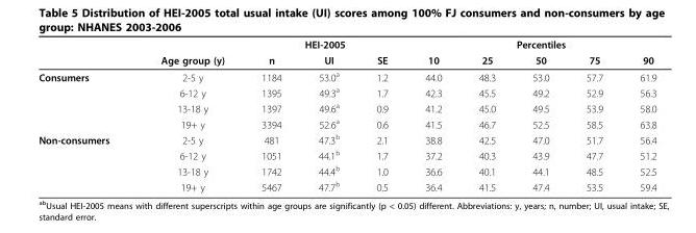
<table><thead><tr><td rowspan="2"></td><td rowspan="2">Age group (y)</td><td colspan="3">HEI-2005</td><td colspan="5">Percentiles</td></tr><tr><td>n</td><td>UI</td><td>SE</td><td>10</td><td>25</td><td>50</td><td>75</td><td>90</td></tr></thead><tbody><tr><td rowspan="4">Consumers</td><td>2-5 y</td><td>1184</td><td>53.0<sup>a</sup></td><td>1.2</td><td>44.0</td><td>48.3</td><td>53.0</td><td>57.7</td><td>61.9</td></tr><tr><td>6-12 y</td><td>1395</td><td>49.3<sup>a</sup></td><td>1.7</td><td>42.3</td><td>45.5</td><td>49.2</td><td>52.9</td><td>56.3</td></tr><tr><td>13-18 y</td><td>1397</td><td>49.6<sup>a</sup></td><td>0.9</td><td>41.2</td><td>45.0</td><td>49.5</td><td>53.9</td><td>58.0</td></tr><tr><td>19+ y</td><td>3394</td><td>52.6<sup>a</sup></td><td>0.6</td><td>41.5</td><td>46.7</td><td>52.5</td><td>58.5</td><td>63.8</td></tr><tr><td rowspan="4">Non-consumers</td><td>2-5 y</td><td>481</td><td>47.3<sup>b</sup></td><td>2.1</td><td>38.8</td><td>42.5</td><td>47.0</td><td>51.7</td><td>56.4</td></tr><tr><td>6-12 y</td><td>1051</td><td>44.1<sup>b</sup></td><td>1.7</td><td>37.2</td><td>40.3</td><td>43.9</td><td>47.7</td><td>51.2</td></tr><tr><td>13-18 y</td><td>1742</td><td>44.4<sup>b</sup></td><td>1.0</td><td>36.6</td><td>40.1</td><td>44.1</td><td>48.5</td><td>52.5</td></tr><tr><td>19+ y</td><td>5467</td><td>47.7<sup>b</sup></td><td>0.5</td><td>36.4</td><td>41.5</td><td>47.4</td><td>53.5</td><td>59.4</td></tr></tbody></table>